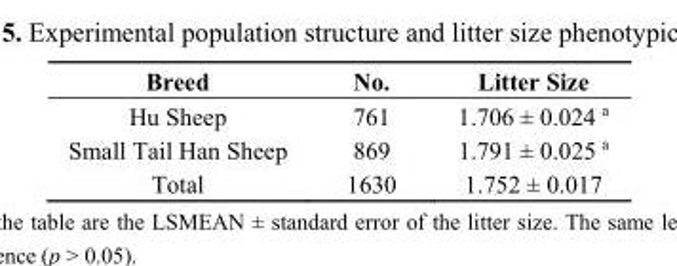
<table><thead><tr><td>Breed</td><td>No.</td><td>Litter Size</td></tr></thead><tbody><tr><td>Hu Sheep</td><td>761</td><td>1.706 ± 0.024 <sup>a</sup></td></tr><tr><td>Small Tail Han Sheep</td><td>869</td><td>1.791 ± 0.025 <sup>a</sup></td></tr><tr><td>Total</td><td>1630</td><td>1.752 ± 0.017</td></tr></tbody></table>